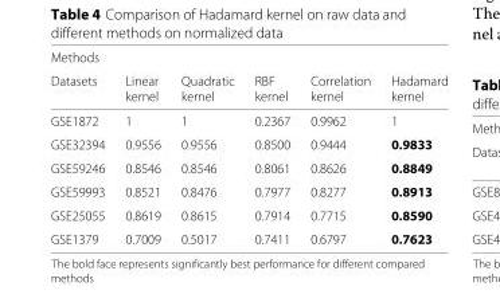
<table><thead><tr><td rowspan="3">Methods Datasets</td><td rowspan="3">Linear kernel</td><td rowspan="3">Quadratic kernel</td><td rowspan="3">RBF kernel</td><td rowspan="3">Correlation kernel</td><td rowspan="3">Hadamard kernel</td></tr><tr></tr><tr></tr></thead><tbody><tr><td>GSE1872</td><td>1</td><td>1</td><td>0.2367</td><td>0.9962</td><td>1</td></tr><tr><td>GSE32394</td><td>0.9556</td><td>0.9556</td><td>0.8500</td><td>0.9444</td><td>0.9833</td></tr><tr><td>GSE59246</td><td>0.8546</td><td>0.8546</td><td>0.8061</td><td>0.8626</td><td>0.8849</td></tr><tr><td>GSE59993</td><td>0.8521</td><td>0.8476</td><td>0.7977</td><td>0.8277</td><td>0.8913</td></tr><tr><td>GSE25055</td><td>0.8619</td><td>0.8615</td><td>0.7914</td><td>0.7715</td><td>0.8590</td></tr><tr><td>GSE1379</td><td>0.7009</td><td>0.5017</td><td>0.7411</td><td>0.6797</td><td>0.7623</td></tr></tbody></table>